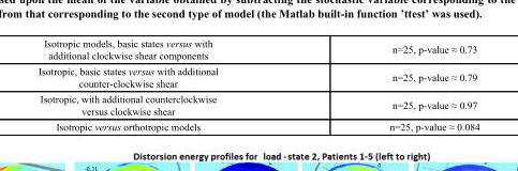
<table><tbody><tr><td>Isotropic models, basic states versus with additional clockwise shear components</td><td>n=25, p-value ≈ 0.73</td></tr><tr><td>Isotropic, basic states versus with additional counter-clockwise shear</td><td>n=25, p-value ≈ 0.79</td></tr><tr><td>Isotropic, with additional counterclockwise versus clockwise shear</td><td>n=25, p-value ≈ 0.97</td></tr><tr><td>Isotropic versus orthotropic models</td><td>n=25, p-value ≈ 0.084</td></tr></tbody></table>